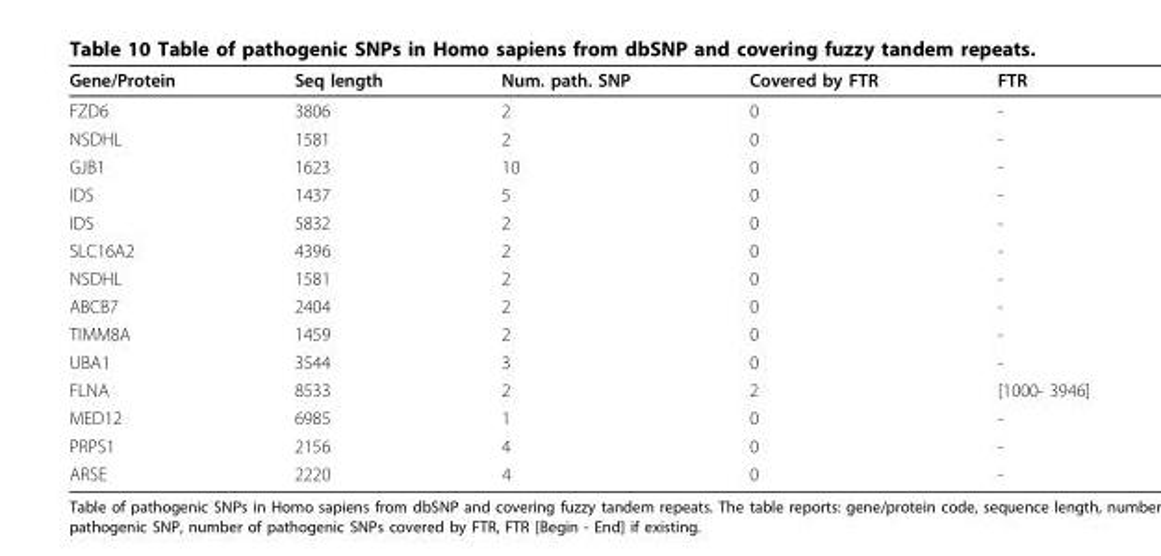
<table><thead><tr><td>Gene/Protein</td><td>Seq length</td><td>Num. path. SNP</td><td>Covered by FTR</td><td>FTR</td></tr></thead><tbody><tr><td>FZD6</td><td>3806</td><td>2</td><td>0</td><td>-</td></tr><tr><td>NSDHL</td><td>1581</td><td>2</td><td>0</td><td>-</td></tr><tr><td>GJB1</td><td>1623</td><td>10</td><td>0</td><td>-</td></tr><tr><td>IDS</td><td>1437</td><td>5</td><td>0</td><td>-</td></tr><tr><td>IDS</td><td>5832</td><td>2</td><td>0</td><td>-</td></tr><tr><td>SLC16A2</td><td>4396</td><td>2</td><td>0</td><td>-</td></tr><tr><td>NSDHL</td><td>1581</td><td>2</td><td>0</td><td>-</td></tr><tr><td>ABCB7</td><td>2404</td><td>2</td><td>0</td><td>-</td></tr><tr><td>TIMM8A</td><td>1459</td><td>2</td><td>0</td><td>-</td></tr><tr><td>UBA1</td><td>3544</td><td>3</td><td>0</td><td>-</td></tr><tr><td>FLNA</td><td>8533</td><td>2</td><td>2</td><td>[1000- 3946]</td></tr><tr><td>MED12</td><td>6985</td><td>1</td><td>0</td><td>-</td></tr><tr><td>PRPS1</td><td>2156</td><td>4</td><td>0</td><td>-</td></tr><tr><td>ARSE</td><td>2220</td><td>4</td><td>0</td><td>-</td></tr></tbody></table>